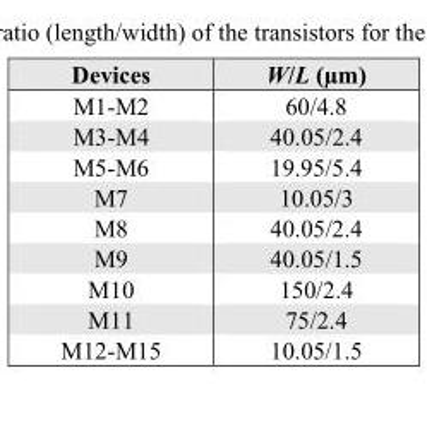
<table><thead><tr><td>Devices</td><td>W/L (µm)</td></tr></thead><tbody><tr><td>M1-M2</td><td>60/4.8</td></tr><tr><td>M3-M4</td><td>40.05/2.4</td></tr><tr><td>M5-M6</td><td>19.95/5.4</td></tr><tr><td>M7</td><td>10.05/3</td></tr><tr><td>M8</td><td>40.05/2.4</td></tr><tr><td>M9</td><td>40.05/1.5</td></tr><tr><td>M10</td><td>150/2.4</td></tr><tr><td>M11</td><td>75/2.4</td></tr><tr><td>M12-M15</td><td>10.05/1.5</td></tr></tbody></table>